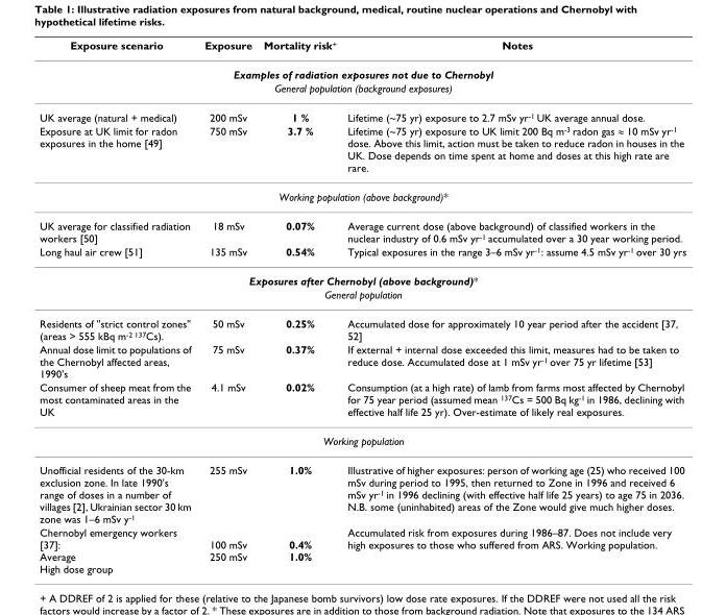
<table><thead><tr><td>Exposure scenario</td><td>Exposure</td><td>Mortality risk<sup>+</sup></td><td>Notes</td></tr></thead><tbody><tr><td colspan="4">Examples of radiation exposures not due to Chernobyl</td></tr><tr><td colspan="4">General population (background exposures)</td></tr><tr><td>UK average (natural + medical)</td><td>200 mSv</td><td>1 %</td><td>Lifetime (~75 yr) exposure to 2.7 mSv yr<sup>-1</sup> UK average annual dose.</td></tr><tr><td>Exposure at UK limit for radon exposures in the home [49]</td><td>750 mSv</td><td>3.7 %</td><td>Lifetime (~75 yr) exposure to UK limit 200 Bq m<sup>-3</sup> radon gas ≈ 10 mSv yr<sup>-1</sup> dose. Above this limit, action must be taken to reduce radon in houses in the UK. Dose depends on time spent at home and doses at this high rate are rare.</td></tr><tr><td colspan="4">Working population (above background)*</td></tr><tr><td>UK average for classified radiation workers [50]</td><td>18 mSv</td><td>0.07%</td><td>Average current dose (above background) of classified workers in the nuclear industry of 0.6 mSv yr<sup>-1</sup> accumulated over a 30 year working period.</td></tr><tr><td>Long haul air crew [51]</td><td>135 mSv</td><td>0.54%</td><td>Typical exposures in the range 3–6 mSv yr<sup>-1</sup>: assume 4.5 mSv yr<sup>-1</sup> over 30 yrs</td></tr><tr><td colspan="4">Exposures after Chernobyl (above background)*</td></tr><tr><td colspan="4">General population</td></tr><tr><td>Residents of &quot;strict control zones&quot; (areas &gt; 555 kBq m<sup>-2 137</sup>Cs).</td><td>50 mSv</td><td>0.25%</td><td>Accumulated dose for approximately 10 year period after the accident [37, 52]</td></tr><tr><td>Annual dose limit to populations of the Chernobyl affected areas, 1990&#x27;s</td><td>75 mSv</td><td>0.37%</td><td>If external + internal dose exceeded this limit, measures had to be taken to reduce dose. Accumulated dose at 1 mSv yr<sup>-1</sup> over 75 yr lifetime [53]</td></tr><tr><td>Consumer of sheep meat from the most contaminated areas in the UK</td><td>4.1 mSv</td><td>0.02%</td><td>Consumption (at a high rate) of lamb from farms most affected by Chernobyl for 75 year period (assumed mean <sup>137</sup>Cs = 500 Bq kg<sup>-1</sup> in 1986, declining with effective half life 25 yr). Over-estimate of likely real exposures.</td></tr><tr><td colspan="4">Working population</td></tr><tr><td>Unofficial residents of the 30-km exclusion zone. In late 1990&#x27;s range of doses in a number of villages [2], Ukrainian sector 30 km zone was 1–6 mSv y<sup>-1</sup></td><td>255 mSv</td><td>1.0%</td><td>Illustrative of higher exposures: person of working age (25) who received 100 mSv during period to 1995, then returned to Zone in 1996 and received 6 mSv yr<sup>-1</sup> in 1996 declining (with effective half life 25 years) to age 75 in 2036. N.B. some (uninhabited) areas of the Zone would give much higher doses.</td></tr><tr><td>Chernobyl emergency workers [37]: Average High dose group</td><td>100 mSv 250 mSv</td><td>0.4% 1.0%</td><td>Accumulated risk from exposures during 1986–87. Does not include very high exposures to those who suffered from ARS. Working population.</td></tr></tbody></table>